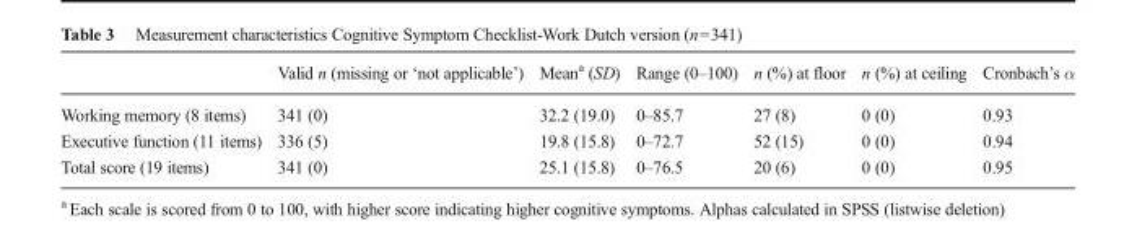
<table><thead><tr><td></td><td>Valid n (missing or ‘not applicable’)</td><td>Mean<sup>a</sup> (SD)</td><td>Range (0–100)</td><td>n (%) at floor</td><td>n (%) at ceiling</td><td>Cronbach’s α</td></tr></thead><tbody><tr><td>Working memory (8 items)</td><td>341 (0)</td><td>32.2 (19.0)</td><td>0–85.7</td><td>27 (8)</td><td>0 (0)</td><td>0.93</td></tr><tr><td>Executive function (11 items)</td><td>336 (5)</td><td>19.8 (15.8)</td><td>0–72.7</td><td>52 (15)</td><td>0 (0)</td><td>0.94</td></tr><tr><td>Total score (19 items)</td><td>341 (0)</td><td>25.1 (15.8)</td><td>0–76.5</td><td>20 (6)</td><td>0 (0)</td><td>0.95</td></tr></tbody></table>